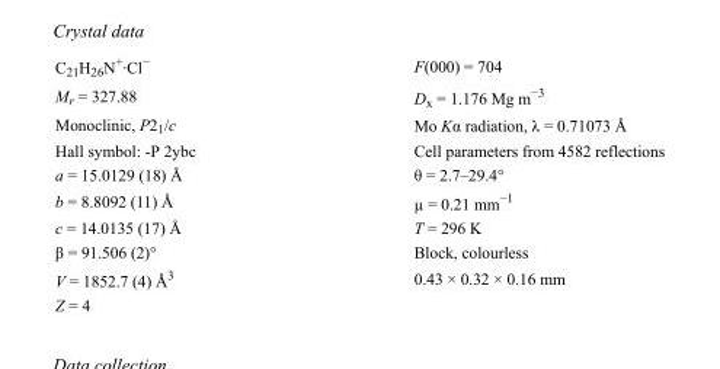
<table><tbody><tr><td>C<sub>21</sub>H<sub>26</sub>N<sup>+</sup>·Cl<sup>−</sup></td><td>F(000) = 704</td></tr><tr><td>M<sub>r</sub> = 327.88</td><td>D<sub>x</sub> = 1.176 Mg m<sup>−3</sup></td></tr><tr><td>Monoclinic, P2<sub>1</sub>/c</td><td>Mo Kα radiation, λ = 0.71073 Å</td></tr><tr><td>Hall symbol: -P 2ybc</td><td>Cell parameters from 4582 reflections</td></tr><tr><td>a = 15.0129 (18) Å</td><td>θ = 2.7–29.4°</td></tr><tr><td>b = 8.8092 (11) Å</td><td>µ = 0.21 mm<sup>−1</sup></td></tr><tr><td>c = 14.0135 (17) Å</td><td>T = 296 K</td></tr><tr><td>β = 91.506 (2)°</td><td>Block, colourless</td></tr><tr><td>V = 1852.7 (4) Å<sup>3</sup></td><td>0.43 × 0.32 × 0.16 mm</td></tr><tr><td>Z = 4</td><td></td></tr></tbody></table>